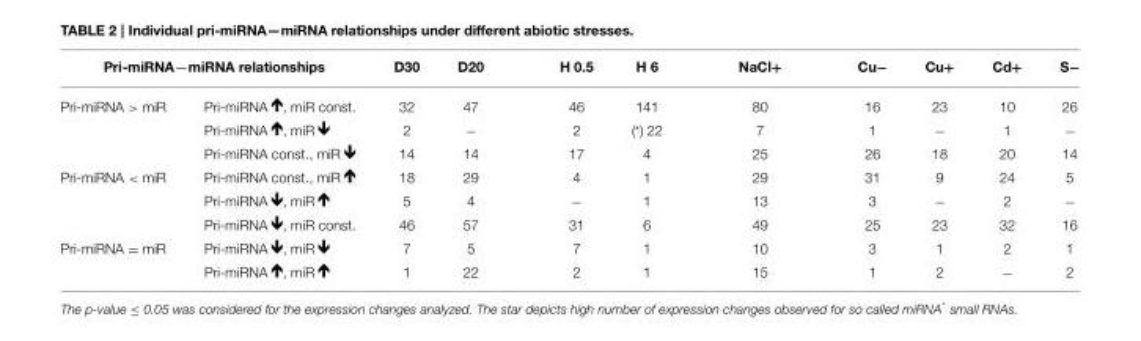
<table><thead><tr><td colspan="2">Pri-miRNA—miRNA relationships</td><td rowspan="2">D30 32</td><td rowspan="2">D20 47</td><td rowspan="2">H 0.5 46</td><td rowspan="2">H 6 141</td><td rowspan="2">NaCl+ 80</td><td rowspan="2">Cu− 16</td><td rowspan="2">Cu+ 23</td><td rowspan="2">Cd+ 10</td><td rowspan="2">S− 26</td></tr><tr><td>Pri-miRNA &gt; miR</td><td>Pri-miRNA , miR const.</td></tr></thead><tbody><tr><td></td><td>Pri-miRNA , miR</td><td>2</td><td>−</td><td>2</td><td>(*) 22</td><td>7</td><td>1</td><td>−</td><td>1</td><td>−</td></tr><tr><td></td><td>Pri-miRNA const., miR</td><td>14</td><td>14</td><td>17</td><td>4</td><td>25</td><td>26</td><td>18</td><td>20</td><td>14</td></tr><tr><td rowspan="3">Pri-miRNA &lt; miR</td><td>Pri-miRNA const., miR</td><td>18</td><td>29</td><td>4</td><td>1</td><td>29</td><td>31</td><td>9</td><td>24</td><td>5</td></tr><tr><td>Pri-miRNA , miR</td><td>5</td><td>4</td><td>−</td><td>1</td><td>13</td><td>3</td><td>−</td><td>2</td><td>−</td></tr><tr><td>Pri-miRNA , miR const.</td><td>46</td><td>57</td><td>31</td><td>6</td><td>49</td><td>25</td><td>23</td><td>32</td><td>16</td></tr><tr><td rowspan="2">Pri-miRNA = miR</td><td>Pri-miRNA , miR</td><td>7</td><td>5</td><td>7</td><td>1</td><td>10</td><td>3</td><td>1</td><td>2</td><td>1</td></tr><tr><td>Pri-miRNA , miR</td><td>1</td><td>22</td><td>2</td><td>1</td><td>15</td><td>1</td><td>2</td><td>−</td><td>2</td></tr></tbody></table>